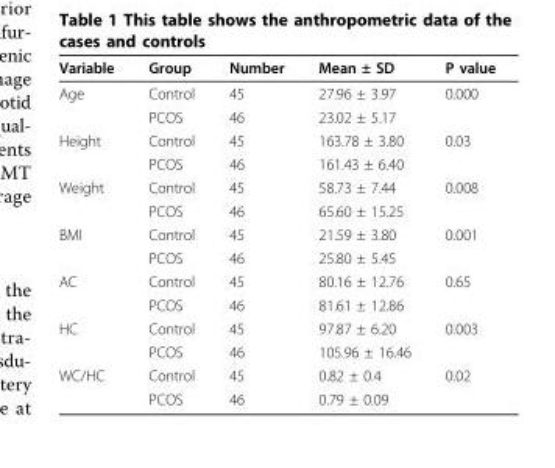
<table><thead><tr><td>Variable</td><td>Group</td><td>Number</td><td>Mean ± SD</td><td>P value</td></tr></thead><tbody><tr><td rowspan="2">Age</td><td>Control</td><td>45</td><td>27.96 ± 3.97</td><td>0.000</td></tr><tr><td>PCOS</td><td>46</td><td>23.02 ± 5.17</td><td></td></tr><tr><td rowspan="2">Height</td><td>Control</td><td>45</td><td>163.78 ± 3.80</td><td>0.03</td></tr><tr><td>PCOS</td><td>46</td><td>161.43 ± 6.40</td><td></td></tr><tr><td rowspan="2">Weight</td><td>Control</td><td>45</td><td>58.73 ± 7.44</td><td>0.008</td></tr><tr><td>PCOS</td><td>46</td><td>65.60 ± 15.25</td><td></td></tr><tr><td rowspan="2">BMI</td><td>Control</td><td>45</td><td>21.59 ± 3.80</td><td>0.001</td></tr><tr><td>PCOS</td><td>46</td><td>25.80 ± 5.45</td><td></td></tr><tr><td rowspan="2">AC</td><td>Control</td><td>45</td><td>80.16 ± 12.76</td><td>0.65</td></tr><tr><td>PCOS</td><td>46</td><td>81.61 ± 12.86</td><td></td></tr><tr><td rowspan="2">HC</td><td>Control</td><td>45</td><td>97.87 ± 6.20</td><td>0.003</td></tr><tr><td>PCOS</td><td>46</td><td>105.96 ± 16.46</td><td></td></tr><tr><td rowspan="2">WC/HC</td><td>Control</td><td>45</td><td>0.82 ± 0.4</td><td>0.02</td></tr><tr><td>PCOS</td><td>46</td><td>0.79 ± 0.09</td><td></td></tr></tbody></table>